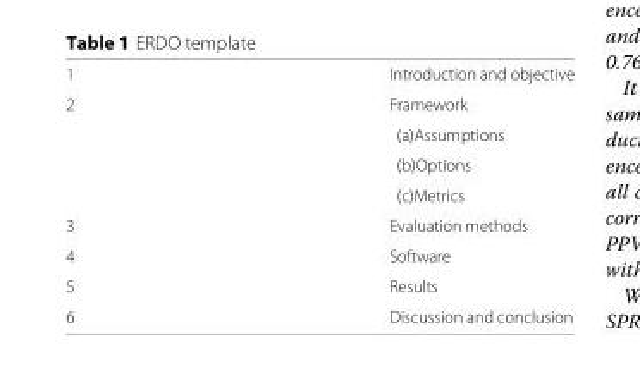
<table><tbody><tr><td>1</td><td>Introduction and objective</td></tr><tr><td rowspan="4">2</td><td>Framework</td></tr><tr><td>(a)Assumptions</td></tr><tr><td>(b)Options</td></tr><tr><td>(c)Metrics</td></tr><tr><td>3</td><td>Evaluation methods</td></tr><tr><td>4</td><td>Software</td></tr><tr><td>5</td><td>Results</td></tr><tr><td>6</td><td>Discussion and conclusion</td></tr></tbody></table>